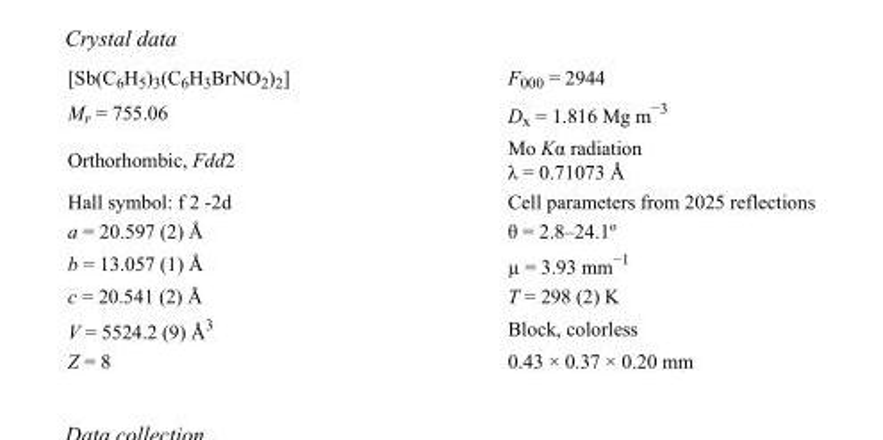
<table><tbody><tr><td>[Sb(C<sub>6</sub>H<sub>5</sub>)<sub>3</sub>(C<sub>6</sub>H<sub>3</sub>BrNO<sub>2</sub>)<sub>2</sub>]</td><td>F<sub>000</sub> = 2944</td></tr><tr><td>M<sub>r</sub> = 755.06</td><td>D<sub>x</sub> = 1.816 Mg m<sup>−3</sup></td></tr><tr><td>Orthorhombic, Fdd2</td><td>Mo Kα radiation λ = 0.71073 Å</td></tr><tr><td>Hall symbol: f 2 -2d</td><td>Cell parameters from 2025 reflections</td></tr><tr><td>a = 20.597 (2) Å</td><td>θ = 2.8–24.1º</td></tr><tr><td>b = 13.057 (1) Å</td><td>µ = 3.93 mm<sup>−1</sup></td></tr><tr><td>c = 20.541 (2) Å</td><td>T = 298 (2) K</td></tr><tr><td>V = 5524.2 (9) Å<sup>3</sup></td><td>Block, colorless</td></tr><tr><td>Z = 8</td><td>0.43 × 0.37 × 0.20 mm</td></tr></tbody></table>